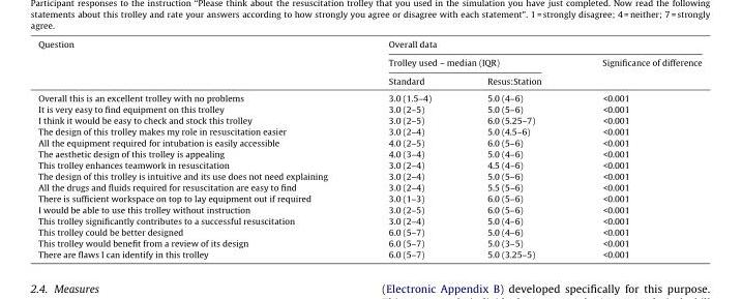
<table><thead><tr><td rowspan="3">Question</td><td colspan="3">Overall data</td></tr><tr><td colspan="2">Trolley used – median (IQR)</td><td rowspan="2">Significance of difference</td></tr><tr><td>Standard</td><td>Resus:Station</td></tr></thead><tbody><tr><td>Overall this is an excellent trolley with no problems</td><td>3.0 (1.5–4)</td><td>5.0 (4–6)</td><td>&lt;0.001</td></tr><tr><td>It is very easy to find equipment on this trolley</td><td>3.0 (2–5)</td><td>5.0 (5–6)</td><td>&lt;0.001</td></tr><tr><td>I think it would be easy to check and stock this trolley</td><td>3.0 (2–5)</td><td>6.0 (5.25–7)</td><td>&lt;0.001</td></tr><tr><td>The design of this trolley makes my role in resuscitation easier</td><td>3.0 (2–4)</td><td>5.0 (4.5–6)</td><td>&lt;0.001</td></tr><tr><td>All the equipment required for intubation is easily accessible</td><td>4.0 (2–5)</td><td>6.0 (5–6)</td><td>&lt;0.001</td></tr><tr><td>The aesthetic design of this trolley is appealing</td><td>4.0 (3–4)</td><td>5.0 (4–6)</td><td>&lt;0.001</td></tr><tr><td>This trolley enhances teamwork in resuscitation</td><td>3.0 (2–4)</td><td>4.5 (4–6)</td><td>&lt;0.001</td></tr><tr><td>The design of this trolley is intuitive and its use does not need explaining</td><td>3.0 (2–4)</td><td>5.0 (5–6)</td><td>&lt;0.001</td></tr><tr><td>All the drugs and fluids required for resuscitation are easy to find</td><td>3.0 (2–4)</td><td>5.5 (5–6)</td><td>&lt;0.001</td></tr><tr><td>There is sufficient workspace on top to lay equipment out if required</td><td>3.0 (1–3)</td><td>6.0 (5–6)</td><td>&lt;0.001</td></tr><tr><td>I would be able to use this trolley without instruction</td><td>3.0 (2–5)</td><td>6.0 (5–6)</td><td>&lt;0.001</td></tr><tr><td>This trolley significantly contributes to a successful resuscitation</td><td>3.0 (2–4)</td><td>5.0 (4–6)</td><td>&lt;0.001</td></tr><tr><td>This trolley could be better designed</td><td>6.0 (5–7)</td><td>5.0 (4–6)</td><td>&lt;0.001</td></tr><tr><td>This trolley would benefit from a review of its design</td><td>6.0 (5–7)</td><td>5.0 (3–5)</td><td>&lt;0.001</td></tr><tr><td>There are flaws I can identify in this trolley</td><td>6.0 (5–7)</td><td>5.0 (3.25–5)</td><td>&lt;0.001</td></tr></tbody></table>